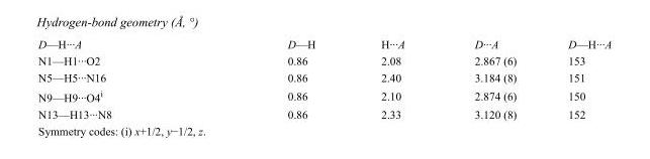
<table><tbody><tr><td>D—H···A</td><td>D—H</td><td>H···A</td><td>D···A</td><td>D—H···A</td></tr><tr><td>N1—H1···O2</td><td>0.86</td><td>2.08</td><td>2.867 (6)</td><td>153</td></tr><tr><td>N5—H5···N16</td><td>0.86</td><td>2.40</td><td>3.184 (8)</td><td>151</td></tr><tr><td>N9—H9···O4<sup>i</sup></td><td>0.86</td><td>2.10</td><td>2.874 (6)</td><td>150</td></tr><tr><td>N13—H13···N8</td><td>0.86</td><td>2.33</td><td>3.120 (8)</td><td>152</td></tr></tbody></table>